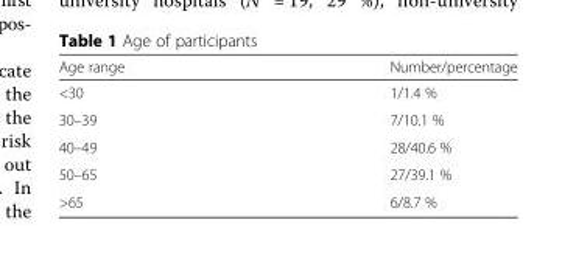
<table><thead><tr><td>Age range</td><td>Number/percentage</td></tr></thead><tbody><tr><td>&lt;30</td><td>1/1.4 %</td></tr><tr><td>30–39</td><td>7/10.1 %</td></tr><tr><td>40–49</td><td>28/40.6 %</td></tr><tr><td>50–65</td><td>27/39.1 %</td></tr><tr><td>&gt;65</td><td>6/8.7 %</td></tr></tbody></table>